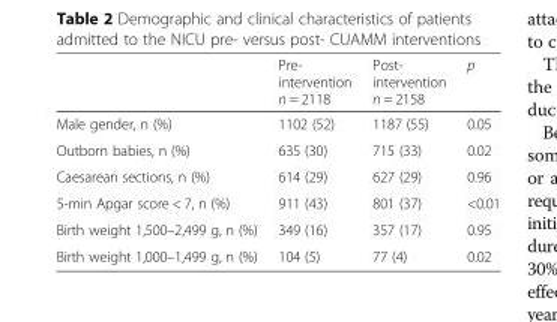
<table><thead><tr><td></td><td>Pre- intervention n = 2118</td><td>Post- intervention n = 2158</td><td>p</td></tr></thead><tbody><tr><td>Male gender, n (%)</td><td>1102 (52)</td><td>1187 (55)</td><td>0.05</td></tr><tr><td>Outborn babies, n (%)</td><td>635 (30)</td><td>715 (33)</td><td>0.02</td></tr><tr><td>Caesarean sections, n (%)</td><td>614 (29)</td><td>627 (29)</td><td>0.96</td></tr><tr><td>5-min Apgar score &lt; 7, n (%)</td><td>911 (43)</td><td>801 (37)</td><td>&lt;0.01</td></tr><tr><td>Birth weight 1,500–2,499 g, n (%)</td><td>349 (16)</td><td>357 (17)</td><td>0.95</td></tr><tr><td>Birth weight 1,000–1,499 g, n (%)</td><td>104 (5)</td><td>77 (4)</td><td>0.02</td></tr></tbody></table>